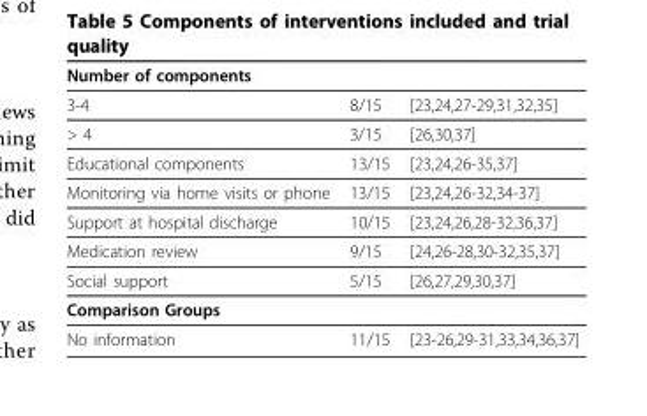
<table><thead><tr><td>Number of components</td><td></td><td></td></tr></thead><tbody><tr><td>3-4</td><td>8/15</td><td>[23,24,27-29,31,32,35]</td></tr><tr><td>&gt; 4</td><td>3/15</td><td>[26,30,37]</td></tr><tr><td>Educational components</td><td>13/15</td><td>[23,24,26-35,37]</td></tr><tr><td>Monitoring via home visits or phone</td><td>13/15</td><td>[23,24,26-32,34-37]</td></tr><tr><td>Support at hospital discharge</td><td>10/15</td><td>[23,24,26,28-32,36,37]</td></tr><tr><td>Medication review</td><td>9/15</td><td>[24,26-28,30-32,35,37]</td></tr><tr><td>Social support</td><td>5/15</td><td>[26,27,29,30,37]</td></tr><tr><td colspan="3">Comparison Groups</td></tr><tr><td>No information</td><td>11/15</td><td>[23-26,29-31,33,34,36,37]</td></tr></tbody></table>